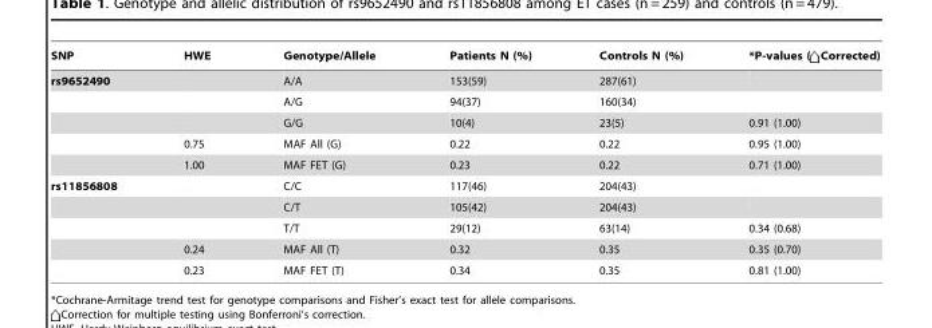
<table><thead><tr><td>SNP</td><td>HWE</td><td>Genotype/Allele</td><td>Patients N (%)</td><td>Controls N (%)</td><td>*P-values ( Corrected)</td></tr></thead><tbody><tr><td rowspan="5">rs9652490</td><td></td><td>A/A</td><td>153(59)</td><td>287(61)</td><td></td></tr><tr><td></td><td>A/G</td><td>94(37)</td><td>160(34)</td><td></td></tr><tr><td></td><td>G/G</td><td>10(4)</td><td>23(5)</td><td>0.91 (1.00)</td></tr><tr><td>0.75</td><td>MAF All (G)</td><td>0.22</td><td>0.22</td><td>0.95 (1.00)</td></tr><tr><td>1.00</td><td>MAF FET (G)</td><td>0.23</td><td>0.22</td><td>0.71 (1.00)</td></tr><tr><td rowspan="5">rs11856808</td><td></td><td>C/C</td><td>117(46)</td><td>204(43)</td><td></td></tr><tr><td></td><td>C/T</td><td>105(42)</td><td>204(43)</td><td></td></tr><tr><td></td><td>T/T</td><td>29(12)</td><td>63(14)</td><td>0.34 (0.68)</td></tr><tr><td>0.24</td><td>MAF All (T)</td><td>0.32</td><td>0.35</td><td>0.35 (0.70)</td></tr><tr><td>0.23</td><td>MAF FET (T)</td><td>0.34</td><td>0.35</td><td>0.81 (1.00)</td></tr></tbody></table>